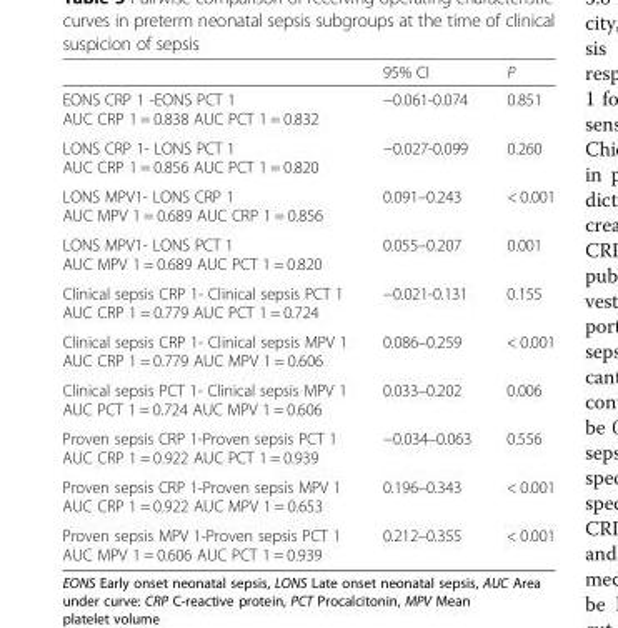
<table><thead><tr><td></td><td>95% CI</td><td>P</td></tr></thead><tbody><tr><td>EONS CRP 1 -EONS PCT 1 AUC CRP 1 = 0.838 AUC PCT 1 = 0.832</td><td>−0.061-0.074</td><td>0.851</td></tr><tr><td>LONS CRP 1- LONS PCT 1 AUC CRP 1 = 0.856 AUC PCT 1 = 0.820</td><td>−0.027-0.099</td><td>0.260</td></tr><tr><td>LONS MPV1- LONS CRP 1 AUC MPV 1 = 0.689 AUC CRP 1 = 0.856</td><td>0.091–0.243</td><td>&lt; 0.001</td></tr><tr><td>LONS MPV1- LONS PCT 1 AUC MPV 1 = 0.689 AUC PCT 1 = 0.820</td><td>0.055–0.207</td><td>0.001</td></tr><tr><td>Clinical sepsis CRP 1- Clinical sepsis PCT 1 AUC CRP 1 = 0.779 AUC PCT 1 = 0.724</td><td>−0.021-0.131</td><td>0.155</td></tr><tr><td>Clinical sepsis CRP 1- Clinical sepsis MPV 1 AUC CRP 1 = 0.779 AUC MPV 1 = 0.606</td><td>0.086–0.259</td><td>&lt; 0.001</td></tr><tr><td>Clinical sepsis PCT 1- Clinical sepsis MPV 1 AUC PCT 1 = 0.724 AUC MPV 1 = 0.606</td><td>0.033–0.202</td><td>0.006</td></tr><tr><td>Proven sepsis CRP 1-Proven sepsis PCT 1 AUC CRP 1 = 0.922 AUC PCT 1 = 0.939</td><td>−0.034–0.063</td><td>0.556</td></tr><tr><td>Proven sepsis CRP 1-Proven sepsis MPV 1 AUC CRP 1 = 0.922 AUC MPV 1 = 0.653</td><td>0.196–0.343</td><td>&lt; 0.001</td></tr><tr><td>Proven sepsis MPV 1-Proven sepsis PCT 1 AUC MPV 1 = 0.606 AUC PCT 1 = 0.939</td><td>0.212–0.355</td><td>&lt; 0.001</td></tr></tbody></table>